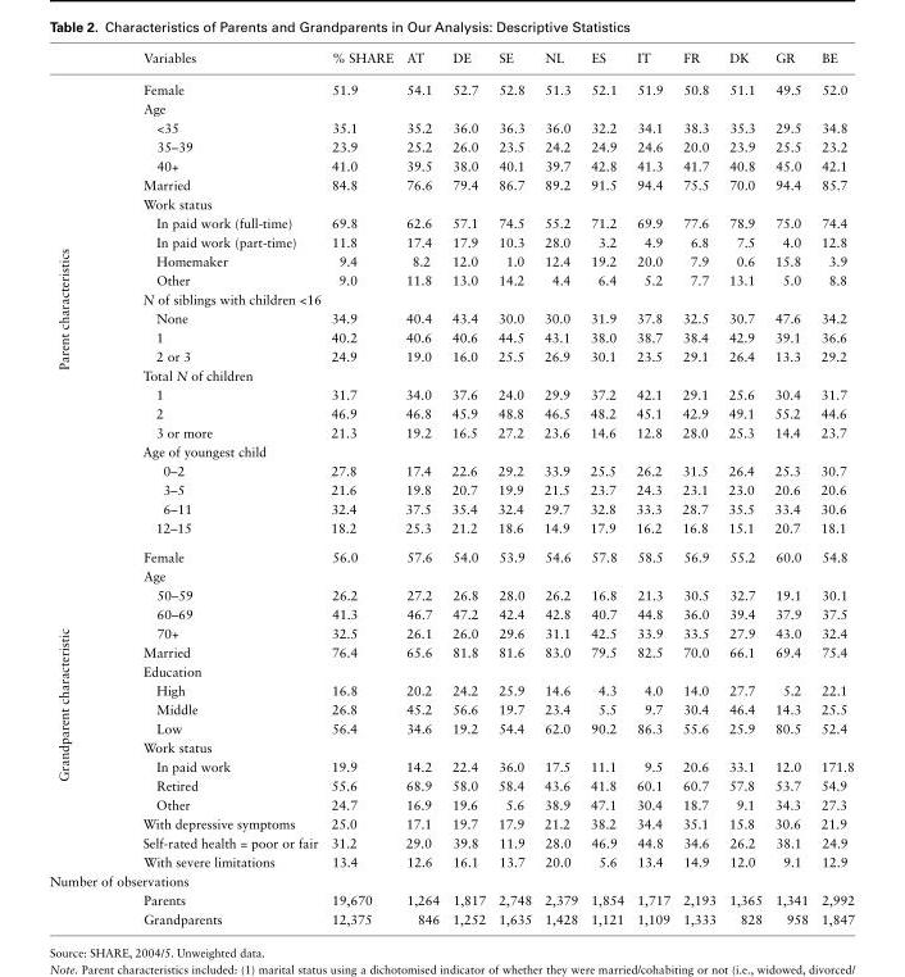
<table><thead><tr><td></td><td>Variables</td><td>% SHARE</td><td>AT</td><td>DE</td><td>SE</td><td>NL</td><td>ES</td><td>IT</td><td>FR</td><td>DK</td><td>GR</td><td>BE</td></tr></thead><tbody><tr><td rowspan="24">Parent characteristics</td><td>Female</td><td>51.9</td><td>54.1</td><td>52.7</td><td>52.8</td><td>51.3</td><td>52.1</td><td>51.9</td><td>50.8</td><td>51.1</td><td>49.5</td><td>52.0</td></tr><tr><td colspan="12">Age</td></tr><tr><td>&lt;35</td><td>35.1</td><td>35.2</td><td>36.0</td><td>36.3</td><td>36.0</td><td>32.2</td><td>34.1</td><td>38.3</td><td>35.3</td><td>29.5</td><td>34.8</td></tr><tr><td>35–39</td><td>23.9</td><td>25.2</td><td>26.0</td><td>23.5</td><td>24.2</td><td>24.9</td><td>24.6</td><td>20.0</td><td>23.9</td><td>25.5</td><td>23.2</td></tr><tr><td>40+</td><td>41.0</td><td>39.5</td><td>38.0</td><td>40.1</td><td>39.7</td><td>42.8</td><td>41.3</td><td>41.7</td><td>40.8</td><td>45.0</td><td>42.1</td></tr><tr><td>Married</td><td>84.8</td><td>76.6</td><td>79.4</td><td>86.7</td><td>89.2</td><td>91.5</td><td>94.4</td><td>75.5</td><td>70.0</td><td>94.4</td><td>85.7</td></tr><tr><td colspan="12">Work status</td></tr><tr><td>In paid work (full-time)</td><td>69.8</td><td>62.6</td><td>57.1</td><td>74.5</td><td>55.2</td><td>71.2</td><td>69.9</td><td>77.6</td><td>78.9</td><td>75.0</td><td>74.4</td></tr><tr><td>In paid work (part-time)</td><td>11.8</td><td>17.4</td><td>17.9</td><td>10.3</td><td>28.0</td><td>3.2</td><td>4.9</td><td>6.8</td><td>7.5</td><td>4.0</td><td>12.8</td></tr><tr><td>Homemaker</td><td>9.4</td><td>8.2</td><td>12.0</td><td>1.0</td><td>12.4</td><td>19.2</td><td>20.0</td><td>7.9</td><td>0.6</td><td>15.8</td><td>3.9</td></tr><tr><td>Other</td><td>9.0</td><td>11.8</td><td>13.0</td><td>14.2</td><td>4.4</td><td>6.4</td><td>5.2</td><td>7.7</td><td>13.1</td><td>5.0</td><td>8.8</td></tr><tr><td colspan="12">N of siblings with children &lt;16</td></tr><tr><td>None</td><td>34.9</td><td>40.4</td><td>43.4</td><td>30.0</td><td>30.0</td><td>31.9</td><td>37.8</td><td>32.5</td><td>30.7</td><td>47.6</td><td>34.2</td></tr><tr><td>1</td><td>40.2</td><td>40.6</td><td>40.6</td><td>44.5</td><td>43.1</td><td>38.0</td><td>38.7</td><td>38.4</td><td>42.9</td><td>39.1</td><td>36.6</td></tr><tr><td>2 or 3</td><td>24.9</td><td>19.0</td><td>16.0</td><td>25.5</td><td>26.9</td><td>30.1</td><td>23.5</td><td>29.1</td><td>26.4</td><td>13.3</td><td>29.2</td></tr><tr><td colspan="12">Total N of children</td></tr><tr><td>1</td><td>31.7</td><td>34.0</td><td>37.6</td><td>24.0</td><td>29.9</td><td>37.2</td><td>42.1</td><td>29.1</td><td>25.6</td><td>30.4</td><td>31.7</td></tr><tr><td>2</td><td>46.9</td><td>46.8</td><td>45.9</td><td>48.8</td><td>46.5</td><td>48.2</td><td>45.1</td><td>42.9</td><td>49.1</td><td>55.2</td><td>44.6</td></tr><tr><td>3 or more</td><td>21.3</td><td>19.2</td><td>16.5</td><td>27.2</td><td>23.6</td><td>14.6</td><td>12.8</td><td>28.0</td><td>25.3</td><td>14.4</td><td>23.7</td></tr><tr><td colspan="12">Age of youngest child</td></tr><tr><td>0–2</td><td>27.8</td><td>17.4</td><td>22.6</td><td>29.2</td><td>33.9</td><td>25.5</td><td>26.2</td><td>31.5</td><td>26.4</td><td>25.3</td><td>30.7</td></tr><tr><td>3–5</td><td>21.6</td><td>19.8</td><td>20.7</td><td>19.9</td><td>21.5</td><td>23.7</td><td>24.3</td><td>23.1</td><td>23.0</td><td>20.6</td><td>20.6</td></tr><tr><td>6–11</td><td>32.4</td><td>37.5</td><td>35.4</td><td>32.4</td><td>29.7</td><td>32.8</td><td>33.3</td><td>28.7</td><td>35.5</td><td>33.4</td><td>30.6</td></tr><tr><td>12–15</td><td>18.2</td><td>25.3</td><td>21.2</td><td>18.6</td><td>14.9</td><td>17.9</td><td>16.2</td><td>16.8</td><td>15.1</td><td>20.7</td><td>18.1</td></tr><tr><td rowspan="17">Grandparent characteristic</td><td>Female</td><td>56.0</td><td>57.6</td><td>54.0</td><td>53.9</td><td>54.6</td><td>57.8</td><td>58.5</td><td>56.9</td><td>55.2</td><td>60.0</td><td>54.8</td></tr><tr><td colspan="12">Age</td></tr><tr><td>50–59</td><td>26.2</td><td>27.2</td><td>26.8</td><td>28.0</td><td>26.2</td><td>16.8</td><td>21.3</td><td>30.5</td><td>32.7</td><td>19.1</td><td>30.1</td></tr><tr><td>60–69</td><td>41.3</td><td>46.7</td><td>47.2</td><td>42.4</td><td>42.8</td><td>40.7</td><td>44.8</td><td>36.0</td><td>39.4</td><td>37.9</td><td>37.5</td></tr><tr><td>70+</td><td>32.5</td><td>26.1</td><td>26.0</td><td>29.6</td><td>31.1</td><td>42.5</td><td>33.9</td><td>33.5</td><td>27.9</td><td>43.0</td><td>32.4</td></tr><tr><td>Married</td><td>76.4</td><td>65.6</td><td>81.8</td><td>81.6</td><td>83.0</td><td>79.5</td><td>82.5</td><td>70.0</td><td>66.1</td><td>69.4</td><td>75.4</td></tr><tr><td colspan="12">Education</td></tr><tr><td>High</td><td>16.8</td><td>20.2</td><td>24.2</td><td>25.9</td><td>14.6</td><td>4.3</td><td>4.0</td><td>14.0</td><td>27.7</td><td>5.2</td><td>22.1</td></tr><tr><td>Middle</td><td>26.8</td><td>45.2</td><td>56.6</td><td>19.7</td><td>23.4</td><td>5.5</td><td>9.7</td><td>30.4</td><td>46.4</td><td>14.3</td><td>25.5</td></tr><tr><td>Low</td><td>56.4</td><td>34.6</td><td>19.2</td><td>54.4</td><td>62.0</td><td>90.2</td><td>86.3</td><td>55.6</td><td>25.9</td><td>80.5</td><td>52.4</td></tr><tr><td colspan="12">Work status</td></tr><tr><td>In paid work</td><td>19.9</td><td>14.2</td><td>22.4</td><td>36.0</td><td>17.5</td><td>11.1</td><td>9.5</td><td>20.6</td><td>33.1</td><td>12.0</td><td>171.8</td></tr><tr><td>Retired</td><td>55.6</td><td>68.9</td><td>58.0</td><td>58.4</td><td>43.6</td><td>41.8</td><td>60.1</td><td>60.7</td><td>57.8</td><td>53.7</td><td>54.9</td></tr><tr><td>Other</td><td>24.7</td><td>16.9</td><td>19.6</td><td>5.6</td><td>38.9</td><td>47.1</td><td>30.4</td><td>18.7</td><td>9.1</td><td>34.3</td><td>27.3</td></tr><tr><td>With depressive symptoms</td><td>25.0</td><td>17.1</td><td>19.7</td><td>17.9</td><td>21.2</td><td>38.2</td><td>34.4</td><td>35.1</td><td>15.8</td><td>30.6</td><td>21.9</td></tr><tr><td>Self-rated health = poor or fair</td><td>31.2</td><td>29.0</td><td>39.8</td><td>11.9</td><td>28.0</td><td>46.9</td><td>44.8</td><td>34.6</td><td>26.2</td><td>38.1</td><td>24.9</td></tr><tr><td>With severe limitations</td><td>13.4</td><td>12.6</td><td>16.1</td><td>13.7</td><td>20.0</td><td>5.6</td><td>13.4</td><td>14.9</td><td>12.0</td><td>9.1</td><td>12.9</td></tr><tr><td colspan="13">Number of observations</td></tr><tr><td></td><td>Parents</td><td>19,670</td><td>1,264</td><td>1,817</td><td>2,748</td><td>2,379</td><td>1,854</td><td>1,717</td><td>2,193</td><td>1,365</td><td>1,341</td><td>2,992</td></tr><tr><td></td><td>Grandparents</td><td>12,375</td><td>846</td><td>1,252</td><td>1,635</td><td>1,428</td><td>1,121</td><td>1,109</td><td>1,333</td><td>828</td><td>958</td><td>1,847</td></tr></tbody></table>